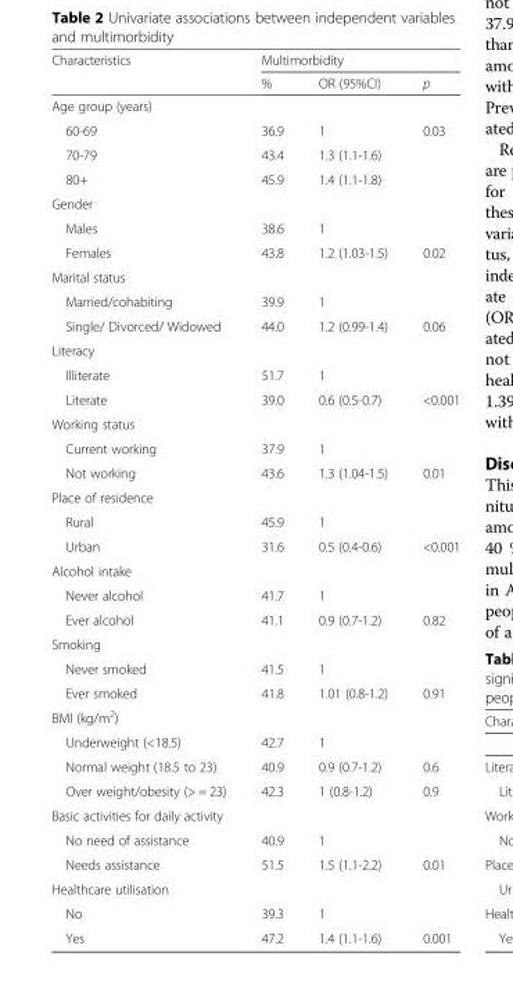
<table><thead><tr><td rowspan="2">Characteristics</td><td colspan="3">Multimorbidity</td></tr><tr><td>%</td><td>OR (95%CI)</td><td>p</td></tr></thead><tbody><tr><td colspan="4">Age group (years)</td></tr><tr><td>60-69</td><td>36.9</td><td>1</td><td>0.03</td></tr><tr><td>70-79</td><td>43.4</td><td>1.3 (1.1-1.6)</td><td></td></tr><tr><td>80+</td><td>45.9</td><td>1.4 (1.1-1.8)</td><td></td></tr><tr><td colspan="4">Gender</td></tr><tr><td>Males</td><td>38.6</td><td>1</td><td></td></tr><tr><td>Females</td><td>43.8</td><td>1.2 (1.03-1.5)</td><td>0.02</td></tr><tr><td colspan="4">Marital status</td></tr><tr><td>Married/cohabiting</td><td>39.9</td><td>1</td><td></td></tr><tr><td>Single/ Divorced/ Widowed</td><td>44.0</td><td>1.2 (0.99-1.4)</td><td>0.06</td></tr><tr><td colspan="4">Literacy</td></tr><tr><td>Illiterate</td><td>51.7</td><td>1</td><td></td></tr><tr><td>Literate</td><td>39.0</td><td>0.6 (0.5-0.7)</td><td>&lt;0.001</td></tr><tr><td colspan="4">Working status</td></tr><tr><td>Current working</td><td>37.9</td><td>1</td><td></td></tr><tr><td>Not working</td><td>43.6</td><td>1.3 (1.04-1.5)</td><td>0.01</td></tr><tr><td colspan="4">Place of residence</td></tr><tr><td>Rural</td><td>45.9</td><td>1</td><td></td></tr><tr><td>Urban</td><td>31.6</td><td>0.5 (0.4-0.6)</td><td>&lt;0.001</td></tr><tr><td colspan="4">Alcohol intake</td></tr><tr><td>Never alcohol</td><td>41.7</td><td>1</td><td></td></tr><tr><td>Ever alcohol</td><td>41.1</td><td>0.9 (0.7-1.2)</td><td>0.82</td></tr><tr><td colspan="4">Smoking</td></tr><tr><td>Never smoked</td><td>41.5</td><td>1</td><td></td></tr><tr><td>Ever smoked</td><td>41.8</td><td>1.01 (0.8-1.2)</td><td>0.91</td></tr><tr><td colspan="4">BMI (kg/m<sup>2</sup>)</td></tr><tr><td>Underweight (&lt;18.5)</td><td>42.7</td><td>1</td><td></td></tr><tr><td>Normal weight (18.5 to 23)</td><td>40.9</td><td>0.9 (0.7-1.2)</td><td>0.6</td></tr><tr><td>Over weight/obesity (&gt; = 23)</td><td>42.3</td><td>1 (0.8-1.2)</td><td>0.9</td></tr><tr><td colspan="4">Basic activities for daily activity</td></tr><tr><td>No need of assistance</td><td>40.9</td><td>1</td><td></td></tr><tr><td>Needs assistance</td><td>51.5</td><td>1.5 (1.1-2.2)</td><td>0.01</td></tr><tr><td colspan="4">Healthcare utilisation</td></tr><tr><td>No</td><td>39.3</td><td>1</td><td></td></tr><tr><td>Yes</td><td>47.2</td><td>1.4 (1.1-1.6)</td><td>0.001</td></tr></tbody></table>